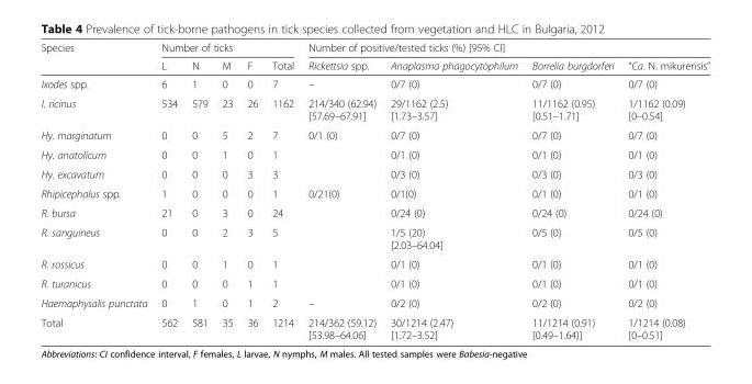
<table><thead><tr><td rowspan="2">Species</td><td colspan="5">Number of ticks</td><td colspan="4">Number of positive/tested ticks (%) [95% CI]</td></tr><tr><td>L</td><td>N</td><td>M</td><td>F</td><td>Total</td><td>Rickettsia spp.</td><td>Anaplasma phagocytophilum</td><td>Borrelia burgdorferi</td><td>“Ca. N. mikurensis”</td></tr></thead><tbody><tr><td>Ixodes spp.</td><td>6</td><td>1</td><td>0</td><td>0</td><td>7</td><td>–</td><td>0/7 (0)</td><td>0/7 (0)</td><td>0/7 (0)</td></tr><tr><td>I. ricinus</td><td>534</td><td>579</td><td>23</td><td>26</td><td>1162</td><td>214/340 (62.94) [57.69–67.91]</td><td>29/1162 (2.5) [1.73–3.57]</td><td>11/1162 (0.95) [0.51–1.71]</td><td>1/1162 (0.09) [0–0.54]</td></tr><tr><td>Hy. marginatum</td><td>0</td><td>0</td><td>5</td><td>2</td><td>7</td><td rowspan="3">0/1 (0)</td><td>0/7 (0)</td><td>0/7 (0)</td><td>0/7 (0)</td></tr><tr><td>Hy. anatolicum</td><td>0</td><td>0</td><td>1</td><td>0</td><td>1</td><td>0/1 (0)</td><td>0/1 (0)</td><td>0/1 (0)</td></tr><tr><td>Hy. excavatum</td><td>0</td><td>0</td><td>0</td><td>3</td><td>3</td><td>0/3 (0)</td><td>0/3 (0)</td><td>0/3 (0)</td></tr><tr><td>Rhipicephalus spp.</td><td>1</td><td>0</td><td>0</td><td>0</td><td>1</td><td rowspan="5">0/21(0)</td><td>0/1(0)</td><td>0/1 (0)</td><td>0/1 (0)</td></tr><tr><td>R. bursa</td><td>21</td><td>0</td><td>3</td><td>0</td><td>24</td><td>0/24 (0)</td><td>0/24 (0)</td><td>0/24 (0)</td></tr><tr><td>R. sanguineus</td><td>0</td><td>0</td><td>2</td><td>3</td><td>5</td><td>1/5 (20) [2.03–64.04]</td><td>0/5 (0)</td><td>0/5 (0)</td></tr><tr><td>R. rossicus</td><td>0</td><td>0</td><td>1</td><td>0</td><td>1</td><td>0/1 (0)</td><td>0/1 (0)</td><td>0/1 (0)</td></tr><tr><td>R. turanicus</td><td>0</td><td>0</td><td>0</td><td>1</td><td>1</td><td>0/1 (0)</td><td>0/1 (0)</td><td>0/1 (0)</td></tr><tr><td>Haemaphysalis punctata</td><td>0</td><td>1</td><td>0</td><td>1</td><td>2</td><td>–</td><td>0/2 (0)</td><td>0/2 (0)</td><td>0/2 (0)</td></tr><tr><td>Total</td><td>562</td><td>581</td><td>35</td><td>36</td><td>1214</td><td>214/362 (59.12) [53.98–64.06]</td><td>30/1214 (2.47) [1.72–3.52]</td><td>11/1214 (0.91) [0.49–1.64)]</td><td>1/1214 (0.08) [0–0.51]</td></tr></tbody></table>